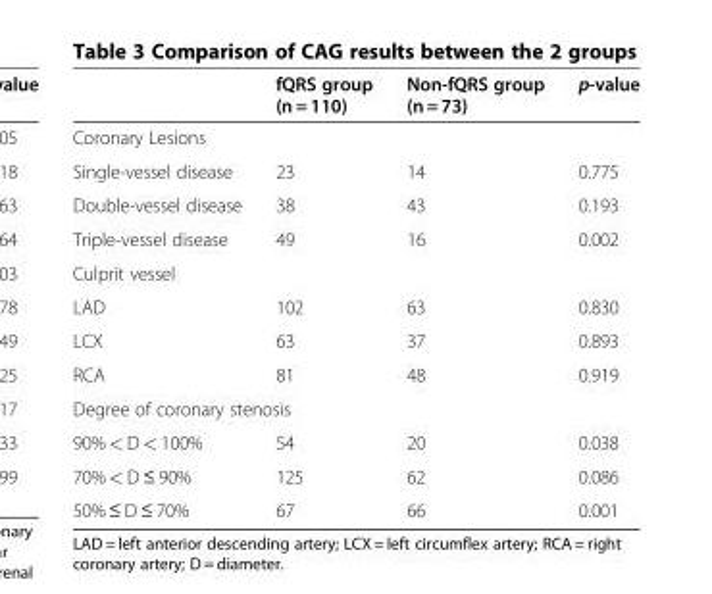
<table><thead><tr><td></td><td>fQRS group (n = 110)</td><td>Non-fQRS group (n = 73)</td><td>p-value</td></tr></thead><tbody><tr><td colspan="4">Coronary Lesions</td></tr><tr><td>Single-vessel disease</td><td>23</td><td>14</td><td>0.775</td></tr><tr><td>Double-vessel disease</td><td>38</td><td>43</td><td>0.193</td></tr><tr><td>Triple-vessel disease</td><td>49</td><td>16</td><td>0.002</td></tr><tr><td colspan="4">Culprit vessel</td></tr><tr><td>LAD</td><td>102</td><td>63</td><td>0.830</td></tr><tr><td>LCX</td><td>63</td><td>37</td><td>0.893</td></tr><tr><td>RCA</td><td>81</td><td>48</td><td>0.919</td></tr><tr><td colspan="4">Degree of coronary stenosis</td></tr><tr><td>90% &lt; D &lt; 100%</td><td>54</td><td>20</td><td>0.038</td></tr><tr><td>70% &lt; D ≤ 90%</td><td>125</td><td>62</td><td>0.086</td></tr><tr><td>50% ≤ D ≤ 70%</td><td>67</td><td>66</td><td>0.001</td></tr></tbody></table>